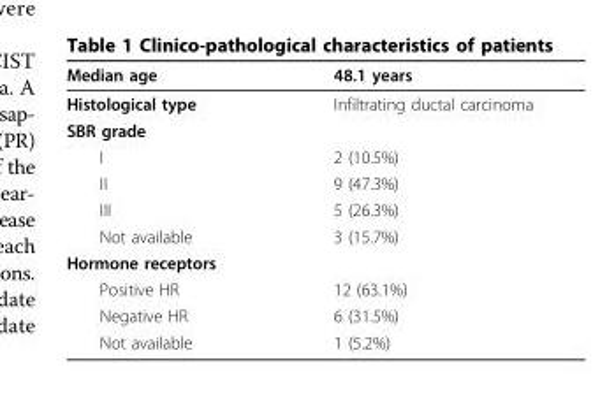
<table><thead><tr><td>Median age</td><td>48.1 years</td></tr></thead><tbody><tr><td>Histological type</td><td>Infiltrating ductal carcinoma</td></tr><tr><td colspan="2">SBR grade</td></tr><tr><td>I</td><td>2 (10.5%)</td></tr><tr><td>II</td><td>9 (47.3%)</td></tr><tr><td>III</td><td>5 (26.3%)</td></tr><tr><td>Not available</td><td>3 (15.7%)</td></tr><tr><td colspan="2">Hormone receptors</td></tr><tr><td>Positive HR</td><td>12 (63.1%)</td></tr><tr><td>Negative HR</td><td>6 (31.5%)</td></tr><tr><td>Not available</td><td>1 (5.2%)</td></tr></tbody></table>